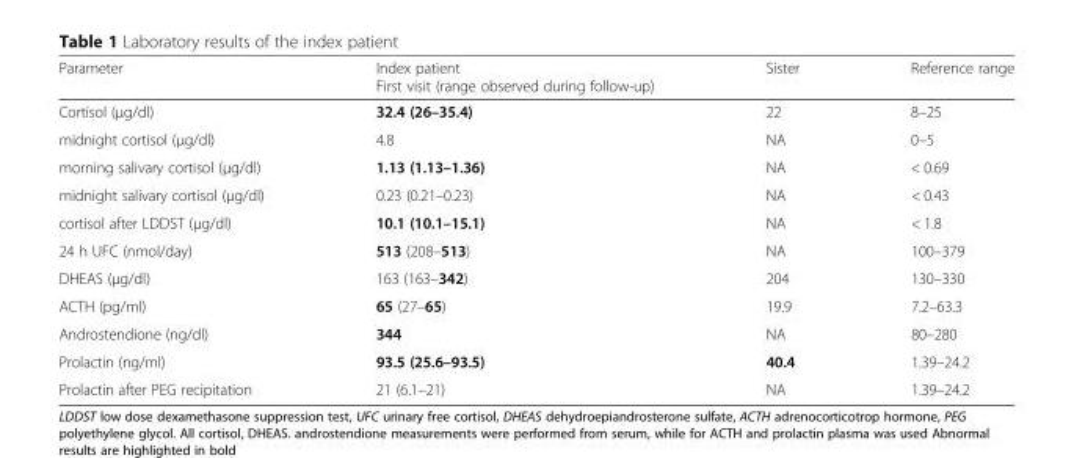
<table><thead><tr><td>Parameter</td><td>Index patient First visit (range observed during follow-up)</td><td>Sister</td><td>Reference range</td></tr></thead><tbody><tr><td>Cortisol (μg/dl)</td><td>32.4 (26–35.4)</td><td>22</td><td>8–25</td></tr><tr><td>midnight cortisol (μg/dl)</td><td>4.8</td><td>NA</td><td>0–5</td></tr><tr><td>morning salivary cortisol (μg/dl)</td><td>1.13 (1.13–1.36)</td><td>NA</td><td>&lt; 0.69</td></tr><tr><td>midnight salivary cortisol (μg/dl)</td><td>0.23 (0.21–0.23)</td><td>NA</td><td>&lt; 0.43</td></tr><tr><td>cortisol after LDDST (μg/dl)</td><td>10.1 (10.1–15.1)</td><td>NA</td><td>&lt; 1.8</td></tr><tr><td>24 h UFC (nmol/day)</td><td>513 (208–513)</td><td>NA</td><td>100–379</td></tr><tr><td>DHEAS (μg/dl)</td><td>163 (163–342)</td><td>204</td><td>130–330</td></tr><tr><td>ACTH (pg/ml)</td><td>65 (27–65)</td><td>19.9</td><td>7.2–63.3</td></tr><tr><td>Androstendione (ng/dl)</td><td>344</td><td>NA</td><td>80–280</td></tr><tr><td>Prolactin (ng/ml)</td><td>93.5 (25.6–93.5)</td><td>40.4</td><td>1.39–24.2</td></tr><tr><td>Prolactin after PEG recipitation</td><td>21 (6.1–21)</td><td>NA</td><td>1.39–24.2</td></tr></tbody></table>